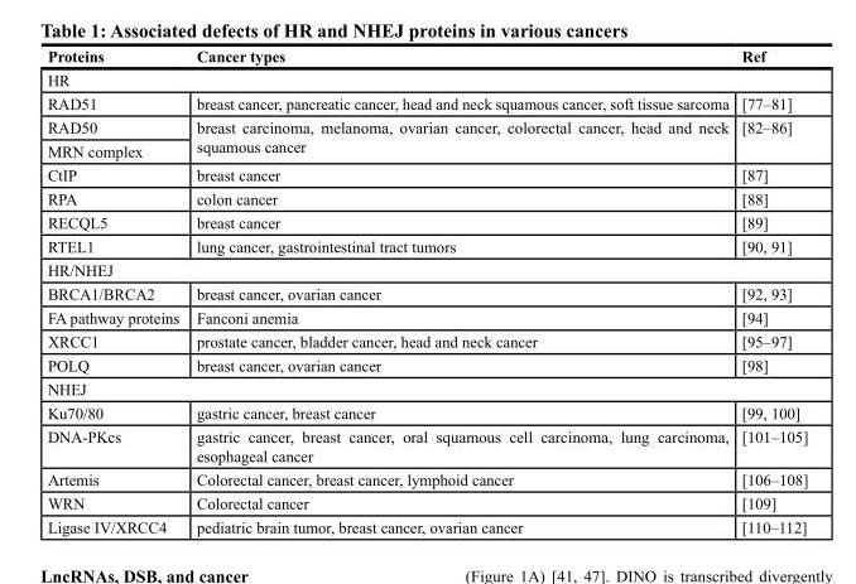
<table><thead><tr><td>Proteins</td><td>Cancer types</td><td>Ref</td></tr></thead><tbody><tr><td colspan="3">HR</td></tr><tr><td>RAD51</td><td>breast cancer, pancreatic cancer, head and neck squamous cancer, soft tissue sarcoma</td><td>[77–81]</td></tr><tr><td>RAD50</td><td rowspan="2">breast carcinoma, melanoma, ovarian cancer, colorectal cancer, head and neck squamous cancer</td><td rowspan="2">[82–86]</td></tr><tr><td>MRN complex</td></tr><tr><td>CtIP</td><td>breast cancer</td><td>[87]</td></tr><tr><td>RPA</td><td>colon cancer</td><td>[88]</td></tr><tr><td>RECQL5</td><td>breast cancer</td><td>[89]</td></tr><tr><td>RTEL1</td><td>lung cancer, gastrointestinal tract tumors</td><td>[90, 91]</td></tr><tr><td colspan="3">HR/NHEJ</td></tr><tr><td>BRCA1/BRCA2</td><td>breast cancer, ovarian cancer</td><td>[92, 93]</td></tr><tr><td>FA pathway proteins</td><td>Fanconi anemia</td><td>[94]</td></tr><tr><td>XRCC1</td><td>prostate cancer, bladder cancer, head and neck cancer</td><td>[95–97]</td></tr><tr><td>POLQ</td><td>breast cancer, ovarian cancer</td><td>[98]</td></tr><tr><td colspan="3">NHEJ</td></tr><tr><td>Ku70/80</td><td>gastric cancer, breast cancer</td><td>[99, 100]</td></tr><tr><td>DNA-PKcs</td><td>gastric cancer, breast cancer, oral squamous cell carcinoma, lung carcinoma, esophageal cancer</td><td>[101–105]</td></tr><tr><td>Artemis</td><td>Colorectal cancer, breast cancer, lymphoid cancer</td><td>[106–108]</td></tr><tr><td>WRN</td><td>Colorectal cancer</td><td>[109]</td></tr><tr><td>Ligase IV/XRCC4</td><td>pediatric brain tumor, breast cancer, ovarian cancer</td><td>[110–112]</td></tr></tbody></table>